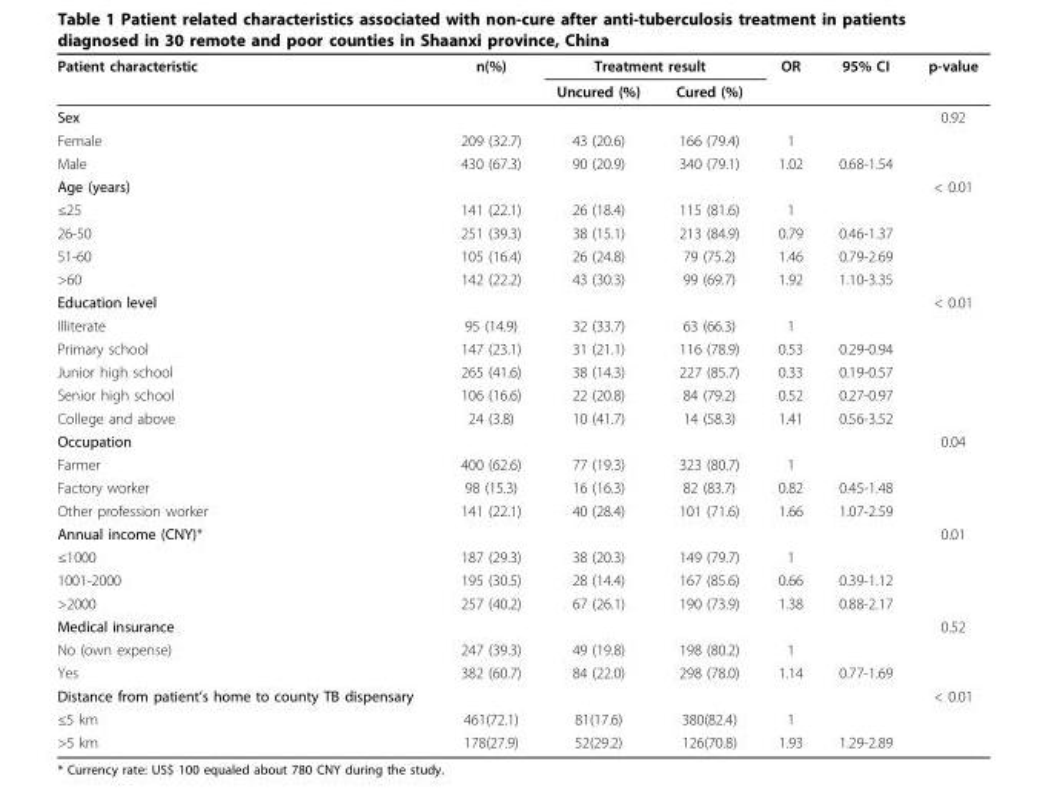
<table><thead><tr><td rowspan="2">Patient characteristic</td><td rowspan="2">n(%)</td><td colspan="2">Treatment result</td><td rowspan="2">OR</td><td rowspan="2">95% CI</td><td rowspan="2">p-value</td></tr><tr><td>Uncured (%)</td><td>Cured (%)</td></tr></thead><tbody><tr><td>Sex</td><td></td><td></td><td></td><td></td><td></td><td>0.92</td></tr><tr><td>Female</td><td>209 (32.7)</td><td>43 (20.6)</td><td>166 (79.4)</td><td>1</td><td></td><td></td></tr><tr><td>Male</td><td>430 (67.3)</td><td>90 (20.9)</td><td>340 (79.1)</td><td>1.02</td><td>0.68-1.54</td><td></td></tr><tr><td>Age (years)</td><td></td><td></td><td></td><td></td><td></td><td>&lt; 0.01</td></tr><tr><td>≤25</td><td>141 (22.1)</td><td>26 (18.4)</td><td>115 (81.6)</td><td>1</td><td></td><td></td></tr><tr><td>26-50</td><td>251 (39.3)</td><td>38 (15.1)</td><td>213 (84.9)</td><td>0.79</td><td>0.46-1.37</td><td></td></tr><tr><td>51-60</td><td>105 (16.4)</td><td>26 (24.8)</td><td>79 (75.2)</td><td>1.46</td><td>0.79-2.69</td><td></td></tr><tr><td>&gt;60</td><td>142 (22.2)</td><td>43 (30.3)</td><td>99 (69.7)</td><td>1.92</td><td>1.10-3.35</td><td></td></tr><tr><td>Education level</td><td></td><td></td><td></td><td></td><td></td><td>&lt; 0.01</td></tr><tr><td>Illiterate</td><td>95 (14.9)</td><td>32 (33.7)</td><td>63 (66.3)</td><td>1</td><td></td><td></td></tr><tr><td>Primary school</td><td>147 (23.1)</td><td>31 (21.1)</td><td>116 (78.9)</td><td>0.53</td><td>0.29-0.94</td><td></td></tr><tr><td>Junior high school</td><td>265 (41.6)</td><td>38 (14.3)</td><td>227 (85.7)</td><td>0.33</td><td>0.19-0.57</td><td></td></tr><tr><td>Senior high school</td><td>106 (16.6)</td><td>22 (20.8)</td><td>84 (79.2)</td><td>0.52</td><td>0.27-0.97</td><td></td></tr><tr><td>College and above</td><td>24 (3.8)</td><td>10 (41.7)</td><td>14 (58.3)</td><td>1.41</td><td>0.56-3.52</td><td></td></tr><tr><td>Occupation</td><td></td><td></td><td></td><td></td><td></td><td>0.04</td></tr><tr><td>Farmer</td><td>400 (62.6)</td><td>77 (19.3)</td><td>323 (80.7)</td><td>1</td><td></td><td></td></tr><tr><td>Factory worker</td><td>98 (15.3)</td><td>16 (16.3)</td><td>82 (83.7)</td><td>0.82</td><td>0.45-1.48</td><td></td></tr><tr><td>Other profession worker</td><td>141 (22.1)</td><td>40 (28.4)</td><td>101 (71.6)</td><td>1.66</td><td>1.07-2.59</td><td></td></tr><tr><td>Annual income (CNY)*</td><td></td><td></td><td></td><td></td><td></td><td>0.01</td></tr><tr><td>≤1000</td><td>187 (29.3)</td><td>38 (20.3)</td><td>149 (79.7)</td><td>1</td><td></td><td></td></tr><tr><td>1001-2000</td><td>195 (30.5)</td><td>28 (14.4)</td><td>167 (85.6)</td><td>0.66</td><td>0.39-1.12</td><td></td></tr><tr><td>&gt;2000</td><td>257 (40.2)</td><td>67 (26.1)</td><td>190 (73.9)</td><td>1.38</td><td>0.88-2.17</td><td></td></tr><tr><td>Medical insurance</td><td></td><td></td><td></td><td></td><td></td><td>0.52</td></tr><tr><td>No (own expense)</td><td>247 (39.3)</td><td>49 (19.8)</td><td>198 (80.2)</td><td>1</td><td></td><td></td></tr><tr><td>Yes</td><td>382 (60.7)</td><td>84 (22.0)</td><td>298 (78.0)</td><td>1.14</td><td>0.77-1.69</td><td></td></tr><tr><td>Distance from patient’s home to county TB dispensary</td><td></td><td></td><td></td><td></td><td></td><td>&lt; 0.01</td></tr><tr><td>≤5 km</td><td>461(72.1)</td><td>81(17.6)</td><td>380(82.4)</td><td>1</td><td></td><td></td></tr><tr><td>&gt;5 km</td><td>178(27.9)</td><td>52(29.2)</td><td>126(70.8)</td><td>1.93</td><td>1.29-2.89</td><td></td></tr></tbody></table>